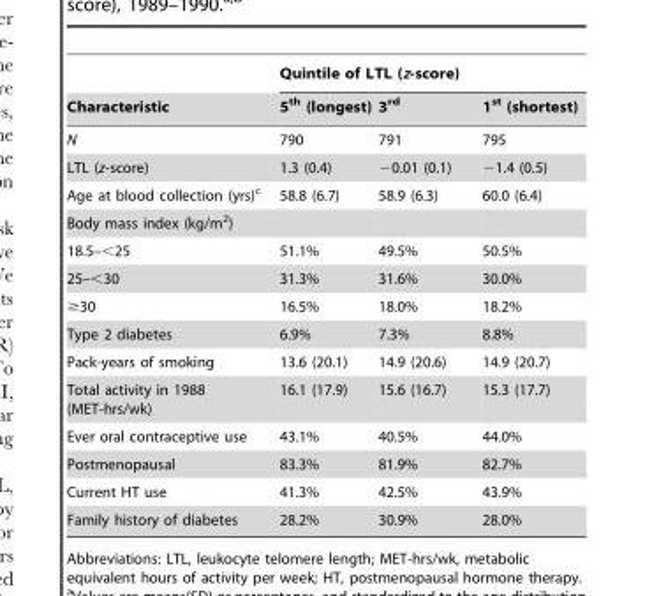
<table><thead><tr><td rowspan="2">Characteristic</td><td colspan="3">Quintile of LTL (z-score)</td></tr><tr><td>5<sup>th</sup> (longest)</td><td>3<sup>rd</sup></td><td>1<sup>st</sup> (shortest)</td></tr></thead><tbody><tr><td>N</td><td>790</td><td>791</td><td>795</td></tr><tr><td>LTL (z-score)</td><td>1.3 (0.4)</td><td>−0.01 (0.1)</td><td>−1.4 (0.5)</td></tr><tr><td>Age at blood collection (yrs)<sup>c</sup></td><td>58.8 (6.7)</td><td>58.9 (6.3)</td><td>60.0 (6.4)</td></tr><tr><td colspan="4">Body mass index (kg/m<sup>2</sup>)</td></tr><tr><td>18.5–&lt;25</td><td>51.1%</td><td>49.5%</td><td>50.5%</td></tr><tr><td>25–&lt;30</td><td>31.3%</td><td>31.6%</td><td>30.0%</td></tr><tr><td>≥30</td><td>16.5%</td><td>18.0%</td><td>18.2%</td></tr><tr><td>Type 2 diabetes</td><td>6.9%</td><td>7.3%</td><td>8.8%</td></tr><tr><td>Pack-years of smoking</td><td>13.6 (20.1)</td><td>14.9 (20.6)</td><td>14.9 (20.7)</td></tr><tr><td>Total activity in 1988 (MET-hrs/wk)</td><td>16.1 (17.9)</td><td>15.6 (16.7)</td><td>15.3 (17.7)</td></tr><tr><td>Ever oral contraceptive use</td><td>43.1%</td><td>40.5%</td><td>44.0%</td></tr><tr><td>Postmenopausal</td><td>83.3%</td><td>81.9%</td><td>82.7%</td></tr><tr><td>Current HT use</td><td>41.3%</td><td>42.5%</td><td>43.9%</td></tr><tr><td>Family history of diabetes</td><td>28.2%</td><td>30.9%</td><td>28.0%</td></tr></tbody></table>